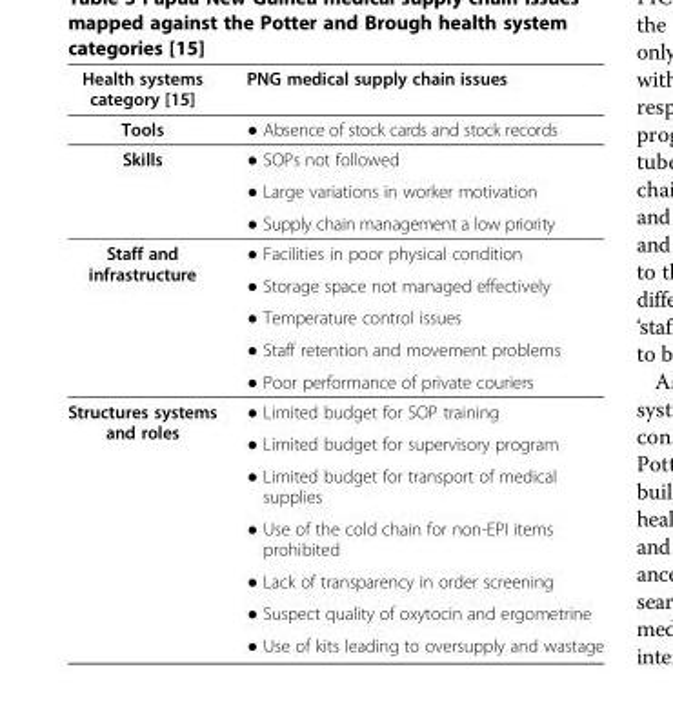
<table><thead><tr><td>Health systems category [15]</td><td>PNG medical supply chain issues</td></tr></thead><tbody><tr><td>Tools</td><td>● Absence of stock cards and stock records</td></tr><tr><td rowspan="3">Skills</td><td>● SOPs not followed</td></tr><tr><td>● Large variations in worker motivation</td></tr><tr><td>● Supply chain management a low priority</td></tr><tr><td rowspan="5">Staff and infrastructure</td><td>● Facilities in poor physical condition</td></tr><tr><td>● Storage space not managed effectively</td></tr><tr><td>● Temperature control issues</td></tr><tr><td>● Staff retention and movement problems</td></tr><tr><td>● Poor performance of private couriers</td></tr><tr><td rowspan="7">Structures systems and roles</td><td>● Limited budget for SOP training</td></tr><tr><td>● Limited budget for supervisory program</td></tr><tr><td>● Limited budget for transport of medical supplies</td></tr><tr><td>● Use of the cold chain for non-EPI items prohibited</td></tr><tr><td>● Lack of transparency in order screening</td></tr><tr><td>● Suspect quality of oxytocin and ergometrine</td></tr><tr><td>● Use of kits leading to oversupply and wastage</td></tr></tbody></table>